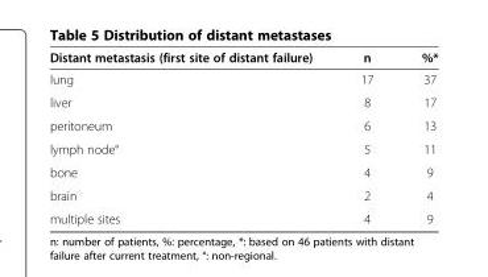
<table><thead><tr><td>Distant metastasis (first site of distant failure)</td><td>n</td><td>%*</td></tr></thead><tbody><tr><td>lung</td><td>17</td><td>37</td></tr><tr><td>liver</td><td>8</td><td>17</td></tr><tr><td>peritoneum</td><td>6</td><td>13</td></tr><tr><td>lymph node°</td><td>5</td><td>11</td></tr><tr><td>bone</td><td>4</td><td>9</td></tr><tr><td>brain</td><td>2</td><td>4</td></tr><tr><td>multiple sites</td><td>4</td><td>9</td></tr></tbody></table>